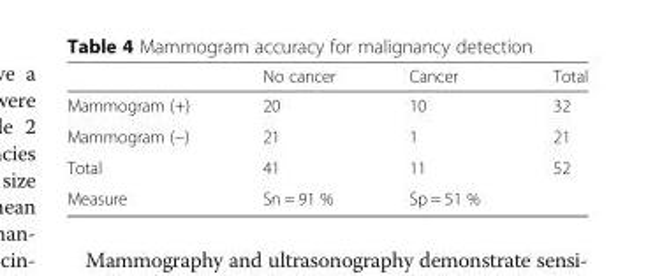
<table><thead><tr><td></td><td>No cancer</td><td>Cancer</td><td>Total</td></tr></thead><tbody><tr><td>Mammogram (+)</td><td>20</td><td>10</td><td>32</td></tr><tr><td>Mammogram (−)</td><td>21</td><td>1</td><td>21</td></tr><tr><td>Total</td><td>41</td><td>11</td><td>52</td></tr><tr><td>Measure</td><td>Sn = 91 %</td><td>Sp = 51 %</td><td></td></tr></tbody></table>